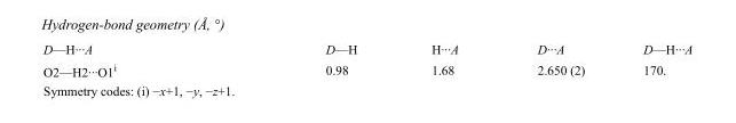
<table><tbody><tr><td>D—H···A</td><td>D—H</td><td>H···A</td><td>D···A</td><td>D—H···A</td></tr><tr><td>O2—H2···O1<sup>i</sup></td><td>0.98</td><td>1.68</td><td>2.650 (2)</td><td>170.</td></tr></tbody></table>